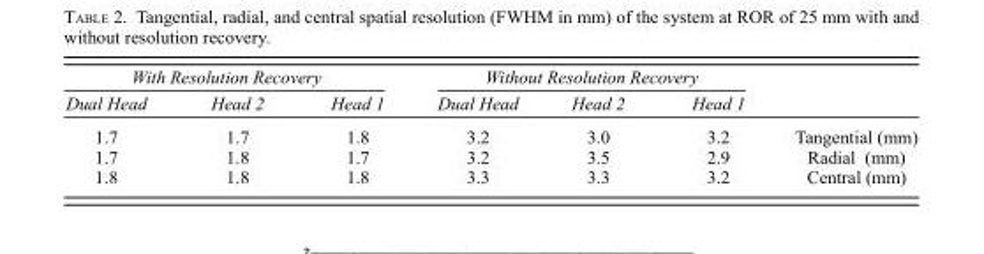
<table><thead><tr><td colspan="3">With Resolution Recovery</td><td colspan="3">Without Resolution Recovery</td><td rowspan="2"></td></tr><tr><td>Dual Head</td><td>Head 2</td><td>Head 1</td><td>Dual Head</td><td>Head 2</td><td>Head 1</td></tr></thead><tbody><tr><td>1.7</td><td>1.7</td><td>1.8</td><td>3.2</td><td>3.0</td><td>3.2</td><td>Tangential (mm)</td></tr><tr><td>1.7</td><td>1.8</td><td>1.7</td><td>3.2</td><td>3.5</td><td>2.9</td><td>Radial (mm)</td></tr><tr><td>1.8</td><td>1.8</td><td>1.8</td><td>3.3</td><td>3.3</td><td>3.2</td><td>Central (mm)</td></tr></tbody></table>